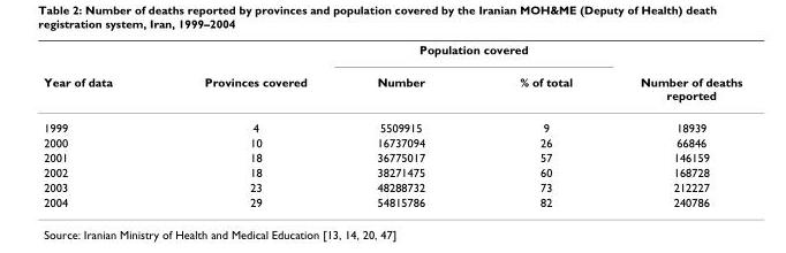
<table><thead><tr><td rowspan="2">Year of data</td><td rowspan="2">Provinces covered</td><td colspan="2">Population covered</td><td rowspan="2">Number of deaths reported</td></tr><tr><td>Number</td><td>% of total</td></tr></thead><tbody><tr><td>1999</td><td>4</td><td>5509915</td><td>9</td><td>18939</td></tr><tr><td>2000</td><td>10</td><td>16737094</td><td>26</td><td>66846</td></tr><tr><td>2001</td><td>18</td><td>36775017</td><td>57</td><td>146159</td></tr><tr><td>2002</td><td>18</td><td>38271475</td><td>60</td><td>168728</td></tr><tr><td>2003</td><td>23</td><td>48288732</td><td>73</td><td>212227</td></tr><tr><td>2004</td><td>29</td><td>54815786</td><td>82</td><td>240786</td></tr></tbody></table>